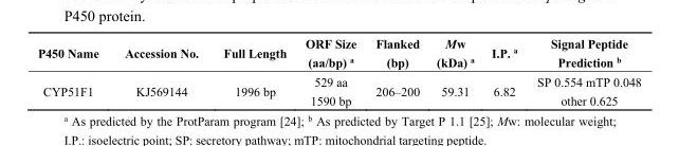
<table><thead><tr><td>P450 Name</td><td>Accession No.</td><td>Full Length</td><td>ORF Size (aa/bp) <sup>a</sup></td><td>Flanked (bp)</td><td>Mw (kDa) <sup>a</sup></td><td>I.P. <sup>a</sup></td><td>Signal Peptide Prediction <sup>b</sup></td></tr></thead><tbody><tr><td>CYP51F1</td><td>KJ569144</td><td>1996 bp</td><td>529 aa 1590 bp</td><td>206–200</td><td>59.31</td><td>6.82</td><td>SP 0.554 mTP 0.048 other 0.625</td></tr></tbody></table>